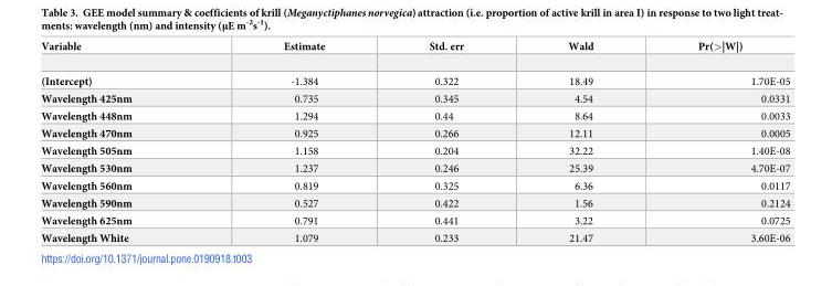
<table><thead><tr><td>Variable</td><td>Estimate</td><td>Std. err</td><td>Wald</td><td>Pr(&gt;|W|)</td></tr></thead><tbody><tr><td>(Intercept)</td><td>-1.384</td><td>0.322</td><td>18.49</td><td>1.70E-05</td></tr><tr><td>Wavelength 425nm</td><td>0.735</td><td>0.345</td><td>4.54</td><td>0.0331</td></tr><tr><td>Wavelength 448nm</td><td>1.294</td><td>0.44</td><td>8.64</td><td>0.0033</td></tr><tr><td>Wavelength 470nm</td><td>0.925</td><td>0.266</td><td>12.11</td><td>0.0005</td></tr><tr><td>Wavelength 505nm</td><td>1.158</td><td>0.204</td><td>32.22</td><td>1.40E-08</td></tr><tr><td>Wavelength 530nm</td><td>1.237</td><td>0.246</td><td>25.39</td><td>4.70E-07</td></tr><tr><td>Wavelength 560nm</td><td>0.819</td><td>0.325</td><td>6.36</td><td>0.0117</td></tr><tr><td>Wavelength 590nm</td><td>0.527</td><td>0.422</td><td>1.56</td><td>0.2124</td></tr><tr><td>Wavelength 625nm</td><td>0.791</td><td>0.441</td><td>3.22</td><td>0.0725</td></tr><tr><td>Wavelength White</td><td>1.079</td><td>0.233</td><td>21.47</td><td>3.60E-06</td></tr></tbody></table>